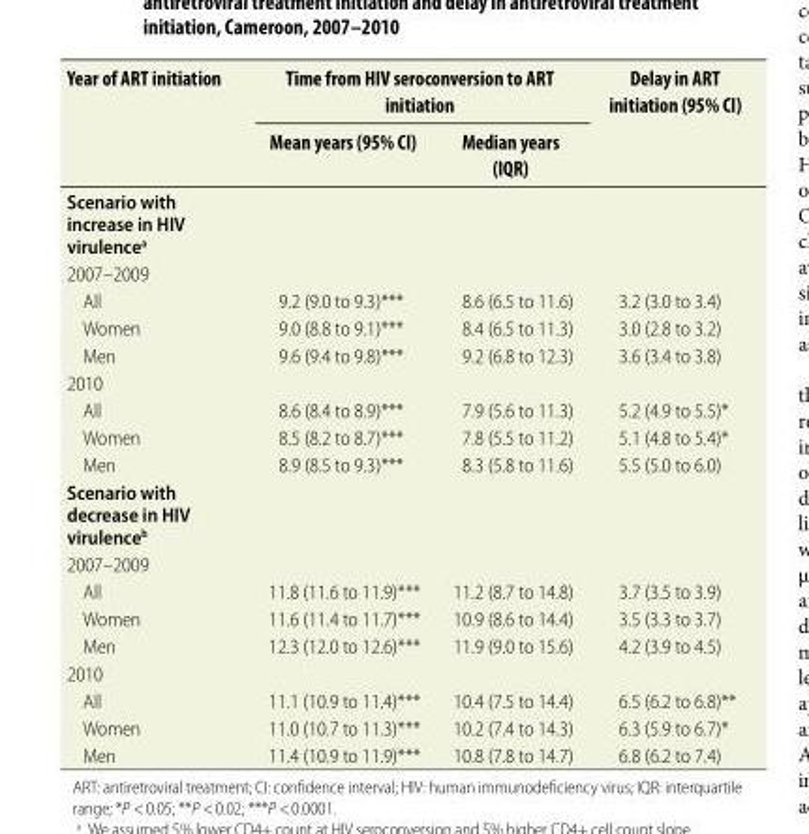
<table><thead><tr><td rowspan="2">Year of ART initiation</td><td colspan="2">Time from HIV seroconversion to ART initiation</td><td rowspan="2">Delay in ART initiation (95% CI)</td></tr><tr><td>Mean years (95% CI)</td><td>Median years (IQR)</td></tr></thead><tbody><tr><td colspan="4">Scenario with increase in HIV virulence<sup>a</sup></td></tr><tr><td colspan="4">2007–2009</td></tr><tr><td>All</td><td>9.2 (9.0 to 9.3)***</td><td>8.6 (6.5 to 11.6)</td><td>3.2 (3.0 to 3.4)</td></tr><tr><td>Women</td><td>9.0 (8.8 to 9.1)***</td><td>8.4 (6.5 to 11.3)</td><td>3.0 (2.8 to 3.2)</td></tr><tr><td>Men</td><td>9.6 (9.4 to 9.8)***</td><td>9.2 (6.8 to 12.3)</td><td>3.6 (3.4 to 3.8)</td></tr><tr><td colspan="4">2010</td></tr><tr><td>All</td><td>8.6 (8.4 to 8.9)***</td><td>7.9 (5.6 to 11.3)</td><td>5.2 (4.9 to 5.5)*</td></tr><tr><td>Women</td><td>8.5 (8.2 to 8.7)***</td><td>7.8 (5.5 to 11.2)</td><td>5.1 (4.8 to 5.4)*</td></tr><tr><td>Men</td><td>8.9 (8.5 to 9.3)***</td><td>8.3 (5.8 to 11.6)</td><td>5.5 (5.0 to 6.0)</td></tr><tr><td colspan="4">Scenario with decrease in HIV virulence<sup>b</sup></td></tr><tr><td colspan="4">2007–2009</td></tr><tr><td>All</td><td>11.8 (11.6 to 11.9)***</td><td>11.2 (8.7 to 14.8)</td><td>3.7 (3.5 to 3.9)</td></tr><tr><td>Women</td><td>11.6 (11.4 to 11.7)***</td><td>10.9 (8.6 to 14.4)</td><td>3.5 (3.3 to 3.7)</td></tr><tr><td>Men</td><td>12.3 (12.0 to 12.6)***</td><td>11.9 (9.0 to 15.6)</td><td>4.2 (3.9 to 4.5)</td></tr><tr><td colspan="4">2010</td></tr><tr><td>All</td><td>11.1 (10.9 to 11.4)***</td><td>10.4 (7.5 to 14.4)</td><td>6.5 (6.2 to 6.8)**</td></tr><tr><td>Women</td><td>11.0 (10.7 to 11.3)***</td><td>10.2 (7.4 to 14.3)</td><td>6.3 (5.9 to 6.7)*</td></tr><tr><td>Men</td><td>11.4 (10.9 to 11.9)***</td><td>10.8 (7.8 to 14.7)</td><td>6.8 (6.2 to 7.4)</td></tr></tbody></table>